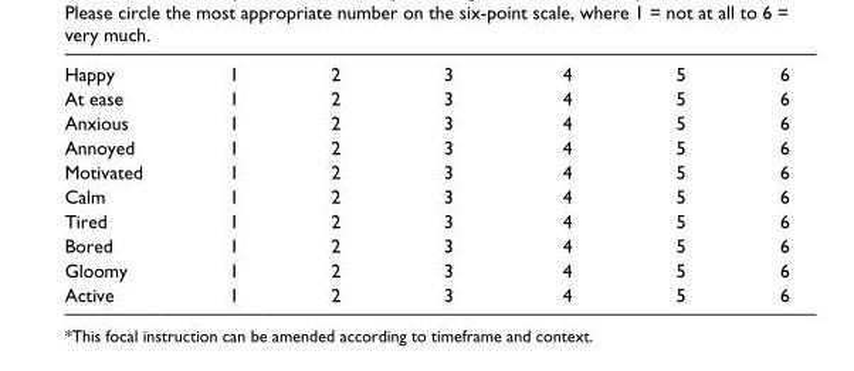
<table><tbody><tr><td>Happy</td><td>1</td><td>2</td><td>3</td><td>4</td><td>5</td><td>6</td></tr><tr><td>At ease</td><td>1</td><td>2</td><td>3</td><td>4</td><td>5</td><td>6</td></tr><tr><td>Anxious</td><td>1</td><td>2</td><td>3</td><td>4</td><td>5</td><td>6</td></tr><tr><td>Annoyed</td><td>1</td><td>2</td><td>3</td><td>4</td><td>5</td><td>6</td></tr><tr><td>Motivated</td><td>1</td><td>2</td><td>3</td><td>4</td><td>5</td><td>6</td></tr><tr><td>Calm</td><td>1</td><td>2</td><td>3</td><td>4</td><td>5</td><td>6</td></tr><tr><td>Tired</td><td>1</td><td>2</td><td>3</td><td>4</td><td>5</td><td>6</td></tr><tr><td>Bored</td><td>1</td><td>2</td><td>3</td><td>4</td><td>5</td><td>6</td></tr><tr><td>Gloomy</td><td>1</td><td>2</td><td>3</td><td>4</td><td>5</td><td>6</td></tr><tr><td>Active</td><td>1</td><td>2</td><td>3</td><td>4</td><td>5</td><td>6</td></tr></tbody></table>